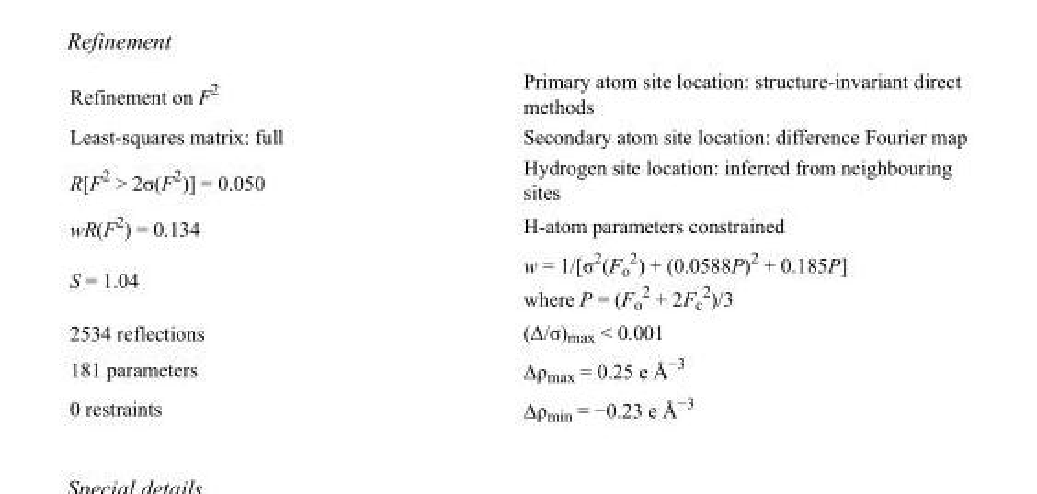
<table><tbody><tr><td>Refinement on F<sup>2</sup></td><td>Primary atom site location: structure-invariant direct methods</td></tr><tr><td>Least-squares matrix: full</td><td>Secondary atom site location: difference Fourier map</td></tr><tr><td>R[F<sup>2</sup> &gt; 2σ(F<sup>2</sup>)] = 0.050</td><td>Hydrogen site location: inferred from neighbouring sites</td></tr><tr><td>wR(F<sup>2</sup>) = 0.134</td><td>H-atom parameters constrained</td></tr><tr><td>S = 1.04</td><td>w = 1/[σ<sup>2</sup>(F<sub>o</sub> <sup>2</sup>) + (0.0588P)<sup>2</sup> + 0.185P] where P = (F<sub>o</sub> <sup>2</sup> + 2F<sub>c</sub> <sup>2</sup>)/3</td></tr><tr><td>2534 reflections</td><td>(Δ/σ)<sub>max</sub> &lt; 0.001</td></tr><tr><td>181 parameters</td><td>Δρ<sub>max</sub> = 0.25 e Å<sup>−3</sup></td></tr><tr><td>0 restraints</td><td>Δρ<sub>min</sub> = −0.23 e Å<sup>−3</sup></td></tr></tbody></table>